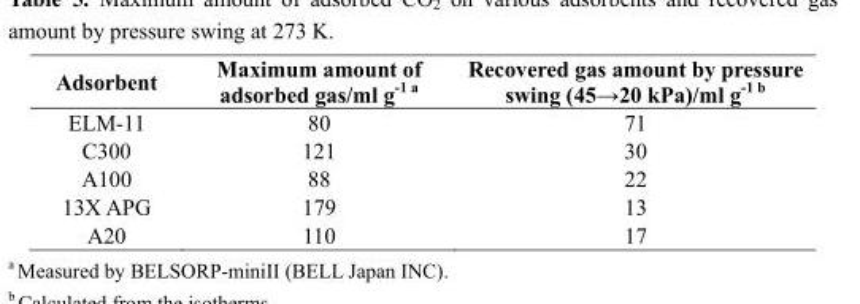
<table><thead><tr><td>Adsorbent</td><td>Maximum amount of adsorbed gas/ml g<sup>-1 a</sup></td><td>Recovered gas amount by pressure swing (45→20 kPa)/ml g<sup>-1 b</sup></td></tr></thead><tbody><tr><td>ELM-11</td><td>80</td><td>71</td></tr><tr><td>C300</td><td>121</td><td>30</td></tr><tr><td>A100</td><td>88</td><td>22</td></tr><tr><td>13X APG</td><td>179</td><td>13</td></tr><tr><td>A20</td><td>110</td><td>17</td></tr></tbody></table>